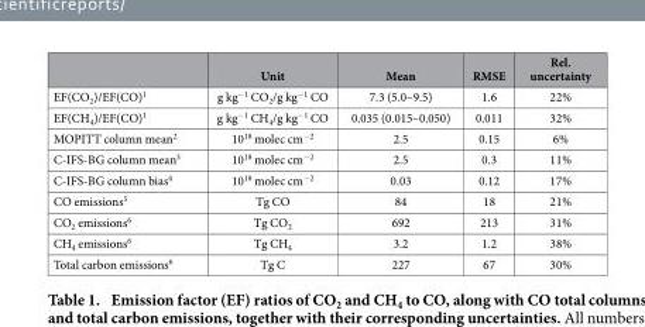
<table><thead><tr><td></td><td>Unit</td><td>Mean</td><td>RMSE</td><td>Rel. uncertainty</td></tr></thead><tbody><tr><td>EF(CO<sub>2</sub>)/EF(CO)<sup>1</sup></td><td>g kg<sup>−1</sup> CO<sub>2</sub>/g kg<sup>−1</sup> CO</td><td>7.3 (5.0–9.5)</td><td>1.6</td><td>22%</td></tr><tr><td>EF(CH<sub>4</sub>)/EF(CO)<sup>1</sup></td><td>g kg<sup>−1</sup> CH<sub>4</sub>/g kg<sup>−1</sup> CO</td><td>0.035 (0.015–0.050)</td><td>0.011</td><td>32%</td></tr><tr><td>MOPITT column mean<sup>2</sup></td><td>10<sup>18</sup> molec cm<sup>−2</sup></td><td>2.5</td><td>0.15</td><td>6%</td></tr><tr><td>C-IFS-BG column mean<sup>3</sup></td><td>10<sup>18</sup> molec cm<sup>−2</sup></td><td>2.5</td><td>0.3</td><td>11%</td></tr><tr><td>C-IFS-BG column bias<sup>4</sup></td><td>10<sup>18</sup> molec cm<sup>−2</sup></td><td>0.03</td><td>0.12</td><td>17%</td></tr><tr><td>CO emissions<sup>5</sup></td><td>Tg CO</td><td>84</td><td>18</td><td>21%</td></tr><tr><td>CO<sub>2</sub> emissions<sup>6</sup></td><td>Tg CO<sub>2</sub></td><td>692</td><td>213</td><td>31%</td></tr><tr><td>CH<sub>4</sub> emissions<sup>6</sup></td><td>Tg CH<sub>4</sub></td><td>3.2</td><td>1.2</td><td>38%</td></tr><tr><td>Total carbon emissions<sup>6</sup></td><td>Tg C</td><td>227</td><td>67</td><td>30%</td></tr></tbody></table>